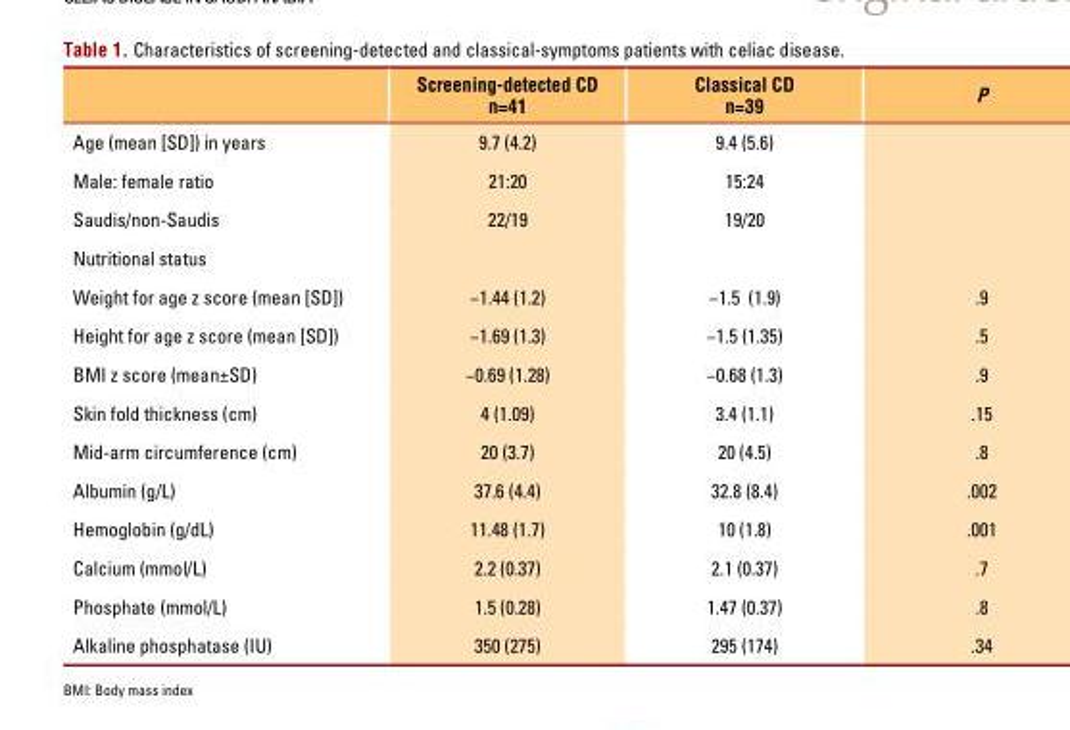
<table><thead><tr><td></td><td>Screening-detected CD n=41</td><td>Classical CD n=39</td><td>P</td></tr></thead><tbody><tr><td>Age (mean [SD]) in years</td><td>9.7 (4.2)</td><td>9.4 (5.6)</td><td></td></tr><tr><td>Male: female ratio</td><td>21:20</td><td>15:24</td><td></td></tr><tr><td>Saudis/non-Saudis</td><td>22/19</td><td>19/20</td><td></td></tr><tr><td colspan="4">Nutritional status</td></tr><tr><td>Weight for age z score (mean [SD])</td><td>−1.44 (1.2)</td><td>−1.5 (1.9)</td><td>.9</td></tr><tr><td>Height for age z score (mean [SD])</td><td>−1.69 (1.3)</td><td>−1.5 (1.35)</td><td>.5</td></tr><tr><td>BMI z score (mean±SD)</td><td>−0.69 (1.28)</td><td>−0.68 (1.3)</td><td>.9</td></tr><tr><td>Skin fold thickness (cm)</td><td>4 (1.09)</td><td>3.4 (1.1)</td><td>.15</td></tr><tr><td>Mid-arm circumference (cm)</td><td>20 (3.7)</td><td>20 (4.5)</td><td>.8</td></tr><tr><td>Albumin (g/L)</td><td>37.6 (4.4)</td><td>32.8 (8.4)</td><td>.002</td></tr><tr><td>Hemoglobin (g/dL)</td><td>11.48 (1.7)</td><td>10 (1.8)</td><td>.001</td></tr><tr><td>Calcium (mmol/L)</td><td>2.2 (0.37)</td><td>2.1 (0.37)</td><td>.7</td></tr><tr><td>Phosphate (mmol/L)</td><td>1.5 (0.28)</td><td>1.47 (0.37)</td><td>.8</td></tr><tr><td>Alkaline phosphatase (IU)</td><td>350 (275)</td><td>295 (174)</td><td>.34</td></tr></tbody></table>